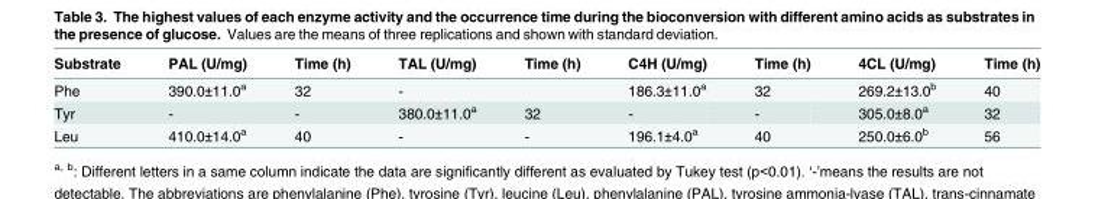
<table><thead><tr><td>Substrate</td><td>PAL (U/mg)</td><td>Time (h)</td><td>TAL (U/mg)</td><td>Time (h)</td><td>C4H (U/mg)</td><td>Time (h)</td><td>4CL (U/mg)</td><td>Time (h)</td></tr></thead><tbody><tr><td>Phe</td><td>390.0±11.0<sup>a</sup></td><td>32</td><td>-</td><td></td><td>186.3±11.0<sup>a</sup></td><td>32</td><td>269.2±13.0<sup>b</sup></td><td>40</td></tr><tr><td>Tyr</td><td>-</td><td>-</td><td>380.0±11.0<sup>a</sup></td><td>32</td><td>-</td><td>-</td><td>305.0±8.0<sup>a</sup></td><td>32</td></tr><tr><td>Leu</td><td>410.0±14.0<sup>a</sup></td><td>40</td><td>-</td><td>-</td><td>196.1±4.0<sup>a</sup></td><td>40</td><td>250.0±6.0<sup>b</sup></td><td>56</td></tr></tbody></table>